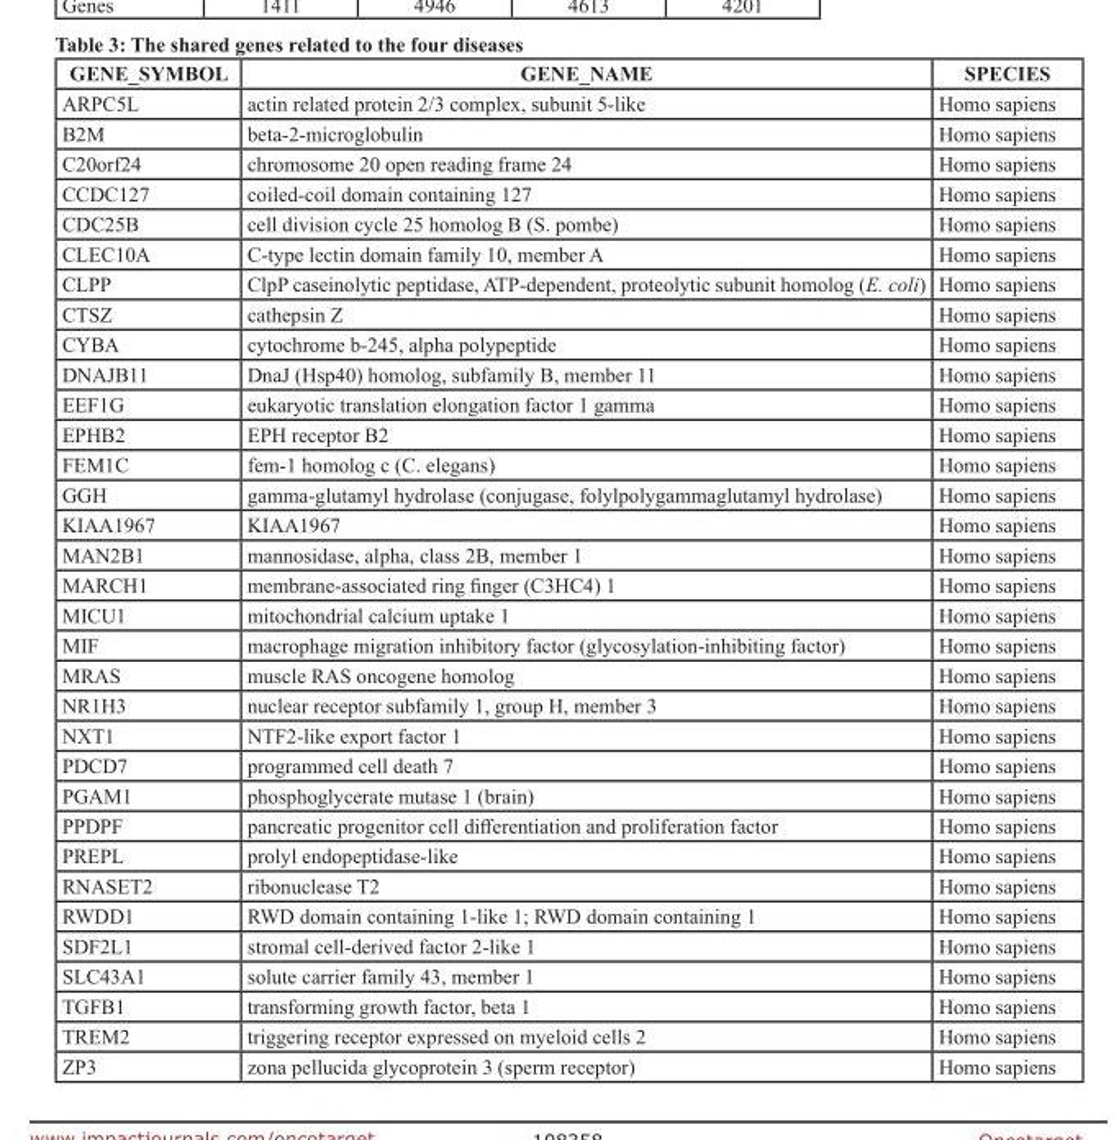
<table><thead><tr><td>GENE_SYMBOL</td><td>GENE_NAME</td><td>SPECIES</td></tr></thead><tbody><tr><td>ARPC5L</td><td>actin related protein 2/3 complex, subunit 5-like</td><td>Homo sapiens</td></tr><tr><td>B2M</td><td>beta-2-microglobulin</td><td>Homo sapiens</td></tr><tr><td>C20orf24</td><td>chromosome 20 open reading frame 24</td><td>Homo sapiens</td></tr><tr><td>CCDC127</td><td>coiled-coil domain containing 127</td><td>Homo sapiens</td></tr><tr><td>CDC25B</td><td>cell division cycle 25 homolog B (S. pombe)</td><td>Homo sapiens</td></tr><tr><td>CLEC10A</td><td>C-type lectin domain family 10, member A</td><td>Homo sapiens</td></tr><tr><td>CLPP</td><td>ClpP caseinolytic peptidase, ATP-dependent, proteolytic subunit homolog (E. coli)</td><td>Homo sapiens</td></tr><tr><td>CTSZ</td><td>cathepsin Z</td><td>Homo sapiens</td></tr><tr><td>CYBA</td><td>cytochrome b-245, alpha polypeptide</td><td>Homo sapiens</td></tr><tr><td>DNAJB11</td><td>DnaJ (Hsp40) homolog, subfamily B, member 11</td><td>Homo sapiens</td></tr><tr><td>EEF1G</td><td>eukaryotic translation elongation factor 1 gamma</td><td>Homo sapiens</td></tr><tr><td>EPHB2</td><td>EPH receptor B2</td><td>Homo sapiens</td></tr><tr><td>FEM1C</td><td>fem-1 homolog c (C. elegans)</td><td>Homo sapiens</td></tr><tr><td>GGH</td><td>gamma-glutamyl hydrolase (conjugase, folylpolygammaglutamyl hydrolase)</td><td>Homo sapiens</td></tr><tr><td>KIAA1967</td><td>KIAA1967</td><td>Homo sapiens</td></tr><tr><td>MAN2B1</td><td>mannosidase, alpha, class 2B, member 1</td><td>Homo sapiens</td></tr><tr><td>MARCH1</td><td>membrane-associated ring finger (C3HC4) 1</td><td>Homo sapiens</td></tr><tr><td>MICU1</td><td>mitochondrial calcium uptake 1</td><td>Homo sapiens</td></tr><tr><td>MIF</td><td>macrophage migration inhibitory factor (glycosylation-inhibiting factor)</td><td>Homo sapiens</td></tr><tr><td>MRAS</td><td>muscle RAS oncogene homolog</td><td>Homo sapiens</td></tr><tr><td>NR1H3</td><td>nuclear receptor subfamily 1, group H, member 3</td><td>Homo sapiens</td></tr><tr><td>NXT1</td><td>NTF2-like export factor 1</td><td>Homo sapiens</td></tr><tr><td>PDCD7</td><td>programmed cell death 7</td><td>Homo sapiens</td></tr><tr><td>PGAM1</td><td>phosphoglycerate mutase 1 (brain)</td><td>Homo sapiens</td></tr><tr><td>PPDPF</td><td>pancreatic progenitor cell differentiation and proliferation factor</td><td>Homo sapiens</td></tr><tr><td>PREPL</td><td>prolyl endopeptidase-like</td><td>Homo sapiens</td></tr><tr><td>RNASET2</td><td>ribonuclease T2</td><td>Homo sapiens</td></tr><tr><td>RWDD1</td><td>RWD domain containing 1-like 1; RWD domain containing 1</td><td>Homo sapiens</td></tr><tr><td>SDF2L1</td><td>stromal cell-derived factor 2-like 1</td><td>Homo sapiens</td></tr><tr><td>SLC43A1</td><td>solute carrier family 43, member 1</td><td>Homo sapiens</td></tr><tr><td>TGFB1</td><td>transforming growth factor, beta 1</td><td>Homo sapiens</td></tr><tr><td>TREM2</td><td>triggering receptor expressed on myeloid cells 2</td><td>Homo sapiens</td></tr><tr><td>ZP3</td><td>zona pellucida glycoprotein 3 (sperm receptor)</td><td>Homo sapiens</td></tr></tbody></table>